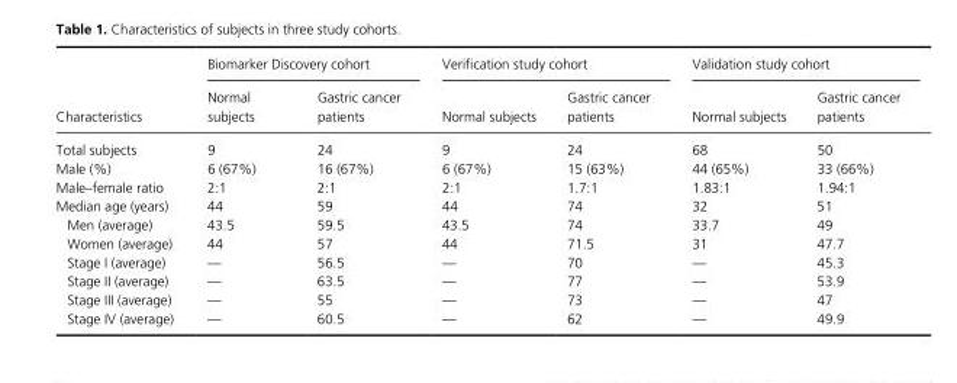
<table><thead><tr><td rowspan="2">Characteristics</td><td colspan="2">Biomarker Discovery cohort</td><td colspan="2">Verification study cohort</td><td colspan="2">Validation study cohort</td></tr><tr><td>Normal subjects</td><td>Gastric cancer patients</td><td>Normal subjects</td><td>Gastric cancer patients</td><td>Normal subjects</td><td>Gastric cancer patients</td></tr></thead><tbody><tr><td>Total subjects</td><td>9</td><td>24</td><td>9</td><td>24</td><td>68</td><td>50</td></tr><tr><td>Male (%)</td><td>6 (67%)</td><td>16 (67%)</td><td>6 (67%)</td><td>15 (63%)</td><td>44 (65%)</td><td>33 (66%)</td></tr><tr><td>Male–female ratio</td><td>2:1</td><td>2:1</td><td>2:1</td><td>1.7:1</td><td>1.83:1</td><td>1.94:1</td></tr><tr><td>Median age (years)</td><td>44</td><td>59</td><td>44</td><td>74</td><td>32</td><td>51</td></tr><tr><td>Men (average)</td><td>43.5</td><td>59.5</td><td>43.5</td><td>74</td><td>33.7</td><td>49</td></tr><tr><td>Women (average)</td><td>44</td><td>57</td><td>44</td><td>71.5</td><td>31</td><td>47.7</td></tr><tr><td>Stage I (average)</td><td>—</td><td>56.5</td><td>—</td><td>70</td><td>—</td><td>45.3</td></tr><tr><td>Stage II (average)</td><td>—</td><td>63.5</td><td>—</td><td>77</td><td>—</td><td>53.9</td></tr><tr><td>Stage III (average)</td><td>—</td><td>55</td><td>—</td><td>73</td><td>—</td><td>47</td></tr><tr><td>Stage IV (average)</td><td>—</td><td>60.5</td><td>—</td><td>62</td><td>—</td><td>49.9</td></tr></tbody></table>